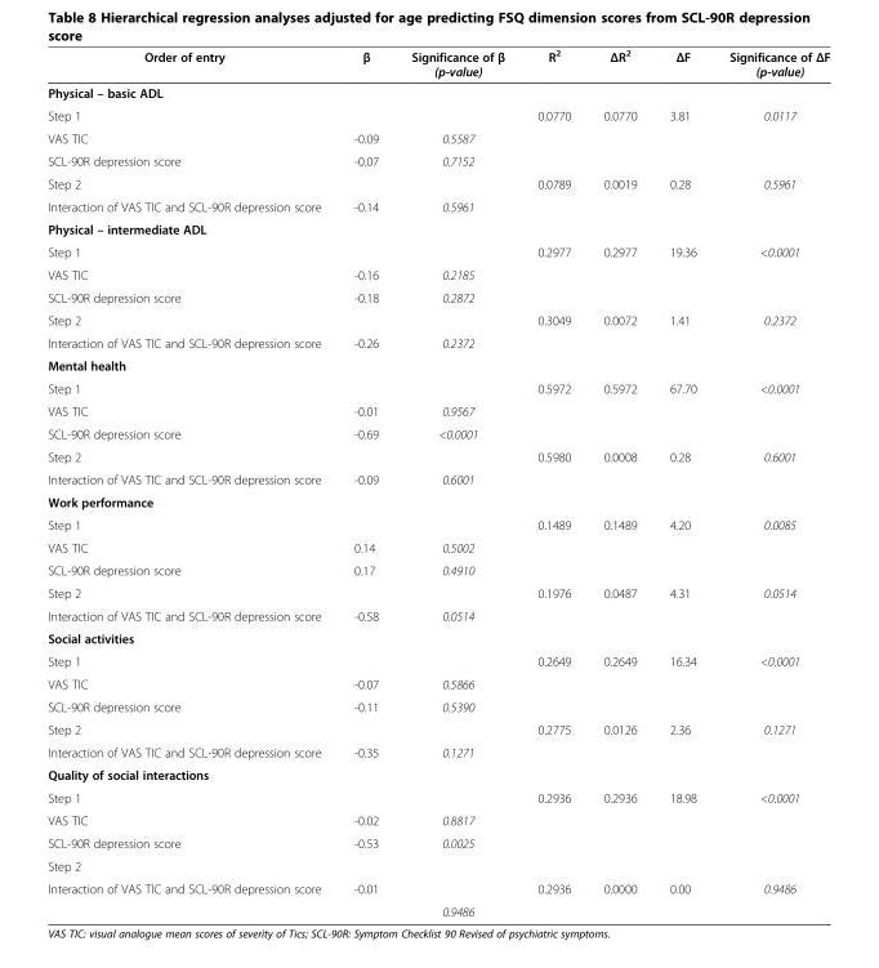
<table><thead><tr><td>Order of entry</td><td>β</td><td>Significance of β (p-value)</td><td>R<sup>2</sup></td><td>ΔR<sup>2</sup></td><td>ΔF</td><td>Significance of ΔF (p-value)</td></tr></thead><tbody><tr><td colspan="7">Physical – basic ADL</td></tr><tr><td>Step 1</td><td></td><td></td><td>0.0770</td><td>0.0770</td><td>3.81</td><td>0.0117</td></tr><tr><td>VAS TIC</td><td>-0.09</td><td>0.5587</td><td></td><td></td><td></td><td></td></tr><tr><td>SCL-90R depression score</td><td>-0.07</td><td>0.7152</td><td></td><td></td><td></td><td></td></tr><tr><td>Step 2</td><td></td><td></td><td>0.0789</td><td>0.0019</td><td>0.28</td><td>0.5961</td></tr><tr><td>Interaction of VAS TIC and SCL-90R depression score</td><td>-0.14</td><td>0.5961</td><td></td><td></td><td></td><td></td></tr><tr><td colspan="7">Physical – intermediate ADL</td></tr><tr><td>Step 1</td><td></td><td></td><td>0.2977</td><td>0.2977</td><td>19.36</td><td>&lt;0.0001</td></tr><tr><td>VAS TIC</td><td>-0.16</td><td>0.2185</td><td></td><td></td><td></td><td></td></tr><tr><td>SCL-90R depression score</td><td>-0.18</td><td>0.2872</td><td></td><td></td><td></td><td></td></tr><tr><td>Step 2</td><td></td><td></td><td>0.3049</td><td>0.0072</td><td>1.41</td><td>0.2372</td></tr><tr><td>Interaction of VAS TIC and SCL-90R depression score</td><td>-0.26</td><td>0.2372</td><td></td><td></td><td></td><td></td></tr><tr><td colspan="7">Mental health</td></tr><tr><td>Step 1</td><td></td><td></td><td>0.5972</td><td>0.5972</td><td>67.70</td><td>&lt;0.0001</td></tr><tr><td>VAS TIC</td><td>-0.01</td><td>0.9567</td><td></td><td></td><td></td><td></td></tr><tr><td>SCL-90R depression score</td><td>-0.69</td><td>&lt;0.0001</td><td></td><td></td><td></td><td></td></tr><tr><td>Step 2</td><td></td><td></td><td>0.5980</td><td>0.0008</td><td>0.28</td><td>0.6001</td></tr><tr><td>Interaction of VAS TIC and SCL-90R depression score</td><td>-0.09</td><td>0.6001</td><td></td><td></td><td></td><td></td></tr><tr><td colspan="7">Work performance</td></tr><tr><td>Step 1</td><td></td><td></td><td>0.1489</td><td>0.1489</td><td>4.20</td><td>0.0085</td></tr><tr><td>VAS TIC</td><td>0.14</td><td>0.5002</td><td></td><td></td><td></td><td></td></tr><tr><td>SCL-90R depression score</td><td>0.17</td><td>0.4910</td><td></td><td></td><td></td><td></td></tr><tr><td>Step 2</td><td></td><td></td><td>0.1976</td><td>0.0487</td><td>4.31</td><td>0.0514</td></tr><tr><td>Interaction of VAS TIC and SCL-90R depression score</td><td>-0.58</td><td>0.0514</td><td></td><td></td><td></td><td></td></tr><tr><td colspan="7">Social activities</td></tr><tr><td>Step 1</td><td></td><td></td><td>0.2649</td><td>0.2649</td><td>16.34</td><td>&lt;0.0001</td></tr><tr><td>VAS TIC</td><td>-0.07</td><td>0.5866</td><td></td><td></td><td></td><td></td></tr><tr><td>SCL-90R depression score</td><td>-0.11</td><td>0.5390</td><td></td><td></td><td></td><td></td></tr><tr><td>Step 2</td><td></td><td></td><td>0.2775</td><td>0.0126</td><td>2.36</td><td>0.1271</td></tr><tr><td>Interaction of VAS TIC and SCL-90R depression score</td><td>-0.35</td><td>0.1271</td><td></td><td></td><td></td><td></td></tr><tr><td colspan="7">Quality of social interactions</td></tr><tr><td>Step 1</td><td></td><td></td><td>0.2936</td><td>0.2936</td><td>18.98</td><td>&lt;0.0001</td></tr><tr><td>VAS TIC</td><td>-0.02</td><td>0.8817</td><td></td><td></td><td></td><td></td></tr><tr><td>SCL-90R depression score</td><td>-0.53</td><td>0.0025</td><td></td><td></td><td></td><td></td></tr><tr><td colspan="7">Step 2</td></tr><tr><td rowspan="2">Interaction of VAS TIC and SCL-90R depression score</td><td>-0.01</td><td></td><td>0.2936</td><td>0.0000</td><td>0.00</td><td>0.9486</td></tr><tr><td></td><td>0.9486</td><td></td><td></td><td></td><td></td></tr></tbody></table>